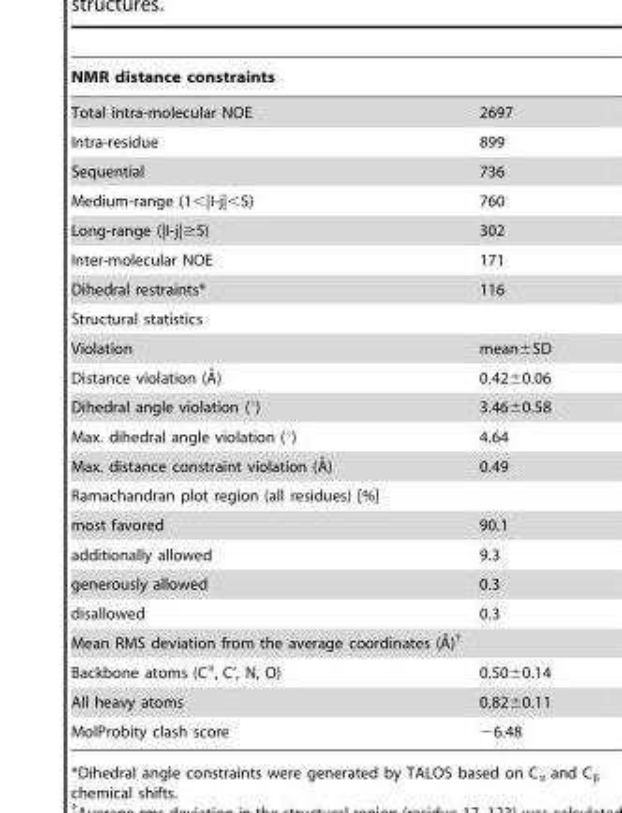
<table><thead><tr><td colspan="2">NMR distance constraints</td></tr><tr><td>Total intra-molecular NOE</td><td>2697</td></tr></thead><tbody><tr><td>Intra-residue</td><td>899</td></tr><tr><td>Sequential</td><td>736</td></tr><tr><td>Medium-range (1&lt;|I-j|&lt;5)</td><td>760</td></tr><tr><td>Long-range (|I-j|≥5)</td><td>302</td></tr><tr><td>Inter-molecular NOE</td><td>171</td></tr><tr><td>Dihedral restraints*</td><td>116</td></tr><tr><td colspan="2">Structural statistics</td></tr><tr><td>Violation</td><td>mean±SD</td></tr><tr><td>Distance violation (A˚)</td><td>0.42±0.06</td></tr><tr><td>Dihedral angle violation (°)</td><td>3.46±0.58</td></tr><tr><td>Max. dihedral angle violation (°)</td><td>4.64</td></tr><tr><td>Max. distance constraint violation (A˚)</td><td>0.49</td></tr><tr><td colspan="2">Ramachandran plot region (all residues) [%]</td></tr><tr><td>most favored</td><td>90.1</td></tr><tr><td>additionally allowed</td><td>9.3</td></tr><tr><td>generously allowed</td><td>0.3</td></tr><tr><td>disallowed</td><td>0.3</td></tr><tr><td colspan="2">Mean RMS deviation from the average coordinates (A˚){</td></tr><tr><td>Backbone atoms (C<sup>α</sup>, C’, N, O)</td><td>0.50±0.14</td></tr><tr><td>All heavy atoms</td><td>0.82±0.11</td></tr><tr><td>MolProbity clash score</td><td>−6.48</td></tr></tbody></table>